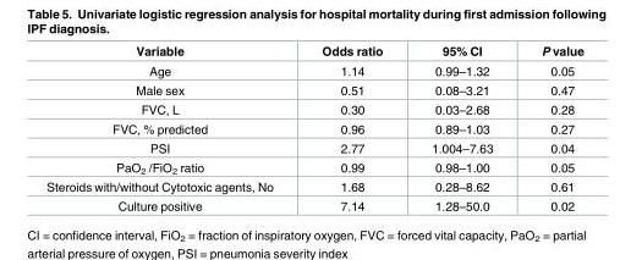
<table><thead><tr><td>Variable</td><td>Odds ratio</td><td>95% CI</td><td>P value</td></tr></thead><tbody><tr><td>Age</td><td>1.14</td><td>0.99–1.32</td><td>0.05</td></tr><tr><td>Male sex</td><td>0.51</td><td>0.08–3.21</td><td>0.47</td></tr><tr><td>FVC, L</td><td>0.30</td><td>0.03–2.68</td><td>0.28</td></tr><tr><td>FVC, % predicted</td><td>0.96</td><td>0.89–1.03</td><td>0.27</td></tr><tr><td>PSI</td><td>2.77</td><td>1.004–7.63</td><td>0.04</td></tr><tr><td>PaO<sub>2</sub> /FiO<sub>2</sub> ratio</td><td>0.99</td><td>0.98–1.00</td><td>0.05</td></tr><tr><td>Steroids with/without Cytotoxic agents, No</td><td>1.68</td><td>0.28–8.62</td><td>0.61</td></tr><tr><td>Culture positive</td><td>7.14</td><td>1.28–50.0</td><td>0.02</td></tr></tbody></table>